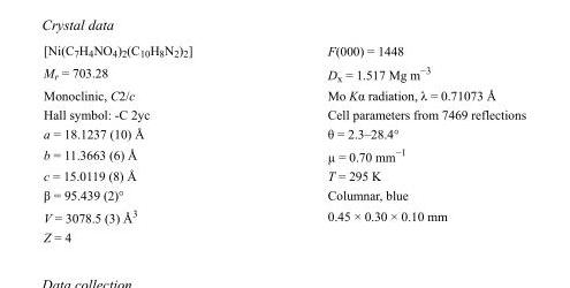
<table><tbody><tr><td>[Ni(C<sub>7</sub>H<sub>4</sub>NO<sub>4</sub>)<sub>2</sub>(C<sub>10</sub>H<sub>8</sub>N<sub>2</sub>)<sub>2</sub>]</td><td>F(000) = 1448</td></tr><tr><td>M<sub>r</sub> = 703.28</td><td>D<sub>x</sub> = 1.517 Mg m<sup>−3</sup></td></tr><tr><td>Monoclinic, C2/c</td><td>Mo Kα radiation, λ = 0.71073 Å</td></tr><tr><td>Hall symbol: -C 2yc</td><td>Cell parameters from 7469 reflections</td></tr><tr><td>a = 18.1237 (10) Å</td><td>θ = 2.3–28.4°</td></tr><tr><td>b = 11.3663 (6) Å</td><td>µ = 0.70 mm<sup>−1</sup></td></tr><tr><td>c = 15.0119 (8) Å</td><td>T = 295 K</td></tr><tr><td>β = 95.439 (2)°</td><td>Columnar, blue</td></tr><tr><td>V = 3078.5 (3) Å<sup>3</sup></td><td>0.45 × 0.30 × 0.10 mm</td></tr><tr><td>Z = 4</td><td></td></tr></tbody></table>